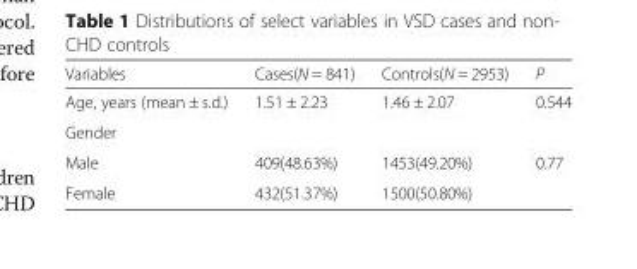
<table><thead><tr><td>Variables</td><td>Cases(N = 841)</td><td>Controls(N = 2953)</td><td>P</td></tr></thead><tbody><tr><td>Age, years (mean ± s.d.)</td><td>1.51 ± 2.23</td><td>1.46 ± 2.07</td><td>0.544</td></tr><tr><td colspan="4">Gender</td></tr><tr><td>Male</td><td>409(48.63%)</td><td>1453(49.20%)</td><td>0.77</td></tr><tr><td>Female</td><td>432(51.37%)</td><td>1500(50.80%)</td><td></td></tr></tbody></table>